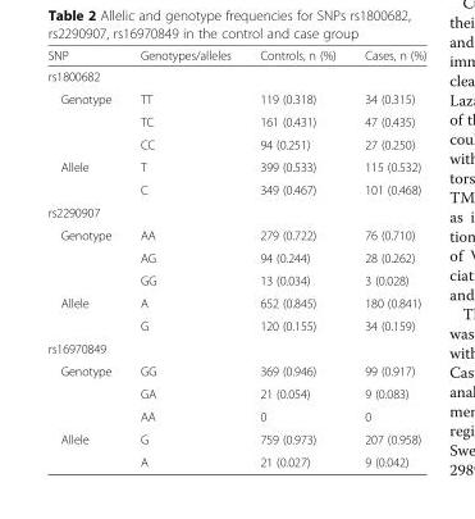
<table><thead><tr><td>SNP</td><td>Genotypes/alleles</td><td>Controls, n (%)</td><td>Cases, n (%)</td></tr></thead><tbody><tr><td colspan="4">rs1800682</td></tr><tr><td rowspan="3">Genotype</td><td>TT</td><td>119 (0.318)</td><td>34 (0.315)</td></tr><tr><td>TC</td><td>161 (0.431)</td><td>47 (0.435)</td></tr><tr><td>CC</td><td>94 (0.251)</td><td>27 (0.250)</td></tr><tr><td rowspan="2">Allele</td><td>T</td><td>399 (0.533)</td><td>115 (0.532)</td></tr><tr><td>C</td><td>349 (0.467)</td><td>101 (0.468)</td></tr><tr><td colspan="4">rs2290907</td></tr><tr><td rowspan="3">Genotype</td><td>AA</td><td>279 (0.722)</td><td>76 (0.710)</td></tr><tr><td>AG</td><td>94 (0.244)</td><td>28 (0.262)</td></tr><tr><td>GG</td><td>13 (0.034)</td><td>3 (0.028)</td></tr><tr><td rowspan="2">Allele</td><td>A</td><td>652 (0.845)</td><td>180 (0.841)</td></tr><tr><td>G</td><td>120 (0.155)</td><td>34 (0.159)</td></tr><tr><td colspan="4">rs16970849</td></tr><tr><td rowspan="3">Genotype</td><td>GG</td><td>369 (0.946)</td><td>99 (0.917)</td></tr><tr><td>GA</td><td>21 (0.054)</td><td>9 (0.083)</td></tr><tr><td>AA</td><td>0</td><td>0</td></tr><tr><td rowspan="2">Allele</td><td>G</td><td>759 (0.973)</td><td>207 (0.958)</td></tr><tr><td>A</td><td>21 (0.027)</td><td>9 (0.042)</td></tr></tbody></table>